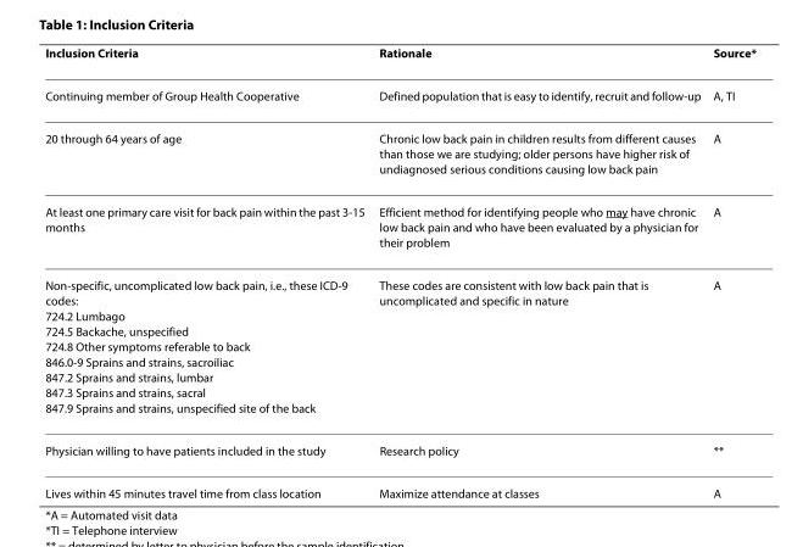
<table><thead><tr><td>Inclusion Criteria</td><td>Rationale</td><td>Source*</td></tr></thead><tbody><tr><td>Continuing member of Group Health Cooperative</td><td>Defined population that is easy to identify, recruit and follow-up</td><td>A, TI</td></tr><tr><td>20 through 64 years of age</td><td>Chronic low back pain in children results from different causes than those we are studying; older persons have higher risk of undiagnosed serious conditions causing low back pain</td><td>A</td></tr><tr><td>At least one primary care visit for back pain within the past 3-15 months</td><td>Efficient method for identifying people who may have chronic low back pain and who have been evaluated by a physician for their problem</td><td>A</td></tr><tr><td>Non-specific, uncomplicated low back pain, i.e., these ICD-9 codes: 724.2 Lumbago 724.5 Backache, unspecified 724.8 Other symptoms referable to back 846.0-9 Sprains and strains, sacroiliac 847.2 Sprains and strains, lumbar 847.3 Sprains and strains, sacral 847.9 Sprains and strains, unspecified site of the back</td><td>These codes are consistent with low back pain that is uncomplicated and specific in nature</td><td>A</td></tr><tr><td>Physician willing to have patients included in the study</td><td>Research policy</td><td>**</td></tr><tr><td>Lives within 45 minutes travel time from class location</td><td>Maximize attendance at classes</td><td>A</td></tr></tbody></table>